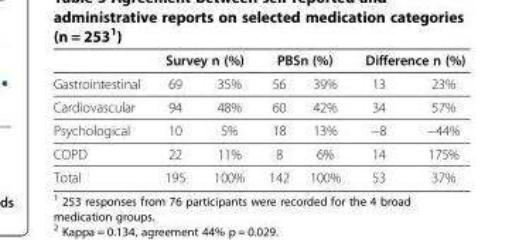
<table><thead><tr><td rowspan="2">Gastrointestinal</td><td colspan="2">Survey n (%)</td><td colspan="2">PBSn (%)</td><td colspan="2">Difference n (%)</td></tr><tr><td>69</td><td>35%</td><td>56</td><td>39%</td><td>13</td><td>23%</td></tr></thead><tbody><tr><td>Cardiovascular</td><td>94</td><td>48%</td><td>60</td><td>42%</td><td>34</td><td>57%</td></tr><tr><td>Psychological</td><td>10</td><td>5%</td><td>18</td><td>13%</td><td>−8</td><td>−44%</td></tr><tr><td>COPD</td><td>22</td><td>11%</td><td>8</td><td>6%</td><td>14</td><td>175%</td></tr><tr><td>Total</td><td>195</td><td>100%</td><td>142</td><td>100%</td><td>53</td><td>37%</td></tr></tbody></table>